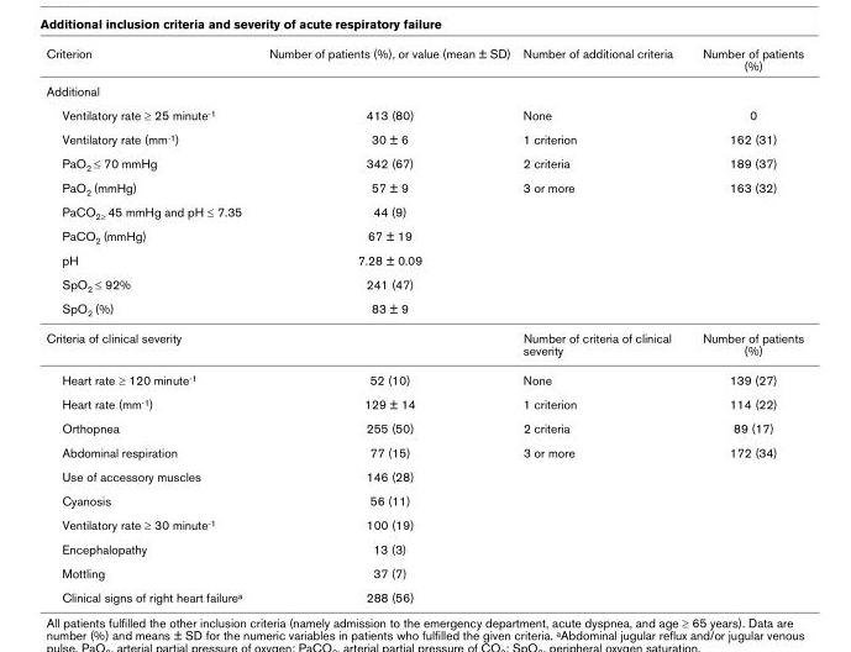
<table><thead><tr><td>Criterion</td><td>Number of patients (%), or value (mean ± SD)</td><td>Number of additional criteria</td><td>Number of patients (%)</td></tr></thead><tbody><tr><td colspan="4">Additional</td></tr><tr><td>Ventilatory rate ≥ 25 minute-1</td><td>413 (80)</td><td>None</td><td>0</td></tr><tr><td>Ventilatory rate (mm-1)</td><td>30 ± 6</td><td>1 criterion</td><td>162 (31)</td></tr><tr><td>PaO2 ≤ 70 mmHg</td><td>342 (67)</td><td>2 criteria</td><td>189 (37)</td></tr><tr><td>PaO2 (mmHg)</td><td>57 ± 9</td><td>3 or more</td><td>163 (32)</td></tr><tr><td>PaCO2≥ 45 mmHg and pH ≤ 7.35</td><td>44 (9)</td><td></td><td></td></tr><tr><td>PaCO2 (mmHg)</td><td>67 ± 19</td><td></td><td></td></tr><tr><td>pH</td><td>7.28 ± 0.09</td><td></td><td></td></tr><tr><td>SpO2 ≤ 92%</td><td>241 (47)</td><td></td><td></td></tr><tr><td>SpO2 (%)</td><td>83 ± 9</td><td></td><td></td></tr><tr><td>Criteria of clinical severity</td><td></td><td>Number of criteria of clinical severity</td><td>Number of patients (%)</td></tr><tr><td>Heart rate ≥ 120 minute-1</td><td>52 (10)</td><td>None</td><td>139 (27)</td></tr><tr><td>Heart rate (mm-1)</td><td>129 ± 14</td><td>1 criterion</td><td>114 (22)</td></tr><tr><td>Orthopnea</td><td>255 (50)</td><td>2 criteria</td><td>89 (17)</td></tr><tr><td>Abdominal respiration</td><td>77 (15)</td><td>3 or more</td><td>172 (34)</td></tr><tr><td>Use of accessory muscles</td><td>146 (28)</td><td></td><td></td></tr><tr><td>Cyanosis</td><td>56 (11)</td><td></td><td></td></tr><tr><td>Ventilatory rate ≥ 30 minute-1</td><td>100 (19)</td><td></td><td></td></tr><tr><td>Encephalopathy</td><td>13 (3)</td><td></td><td></td></tr><tr><td>Mottling</td><td>37 (7)</td><td></td><td></td></tr><tr><td>Clinical signs of right heart failurea</td><td>288 (56)</td><td></td><td></td></tr></tbody></table>